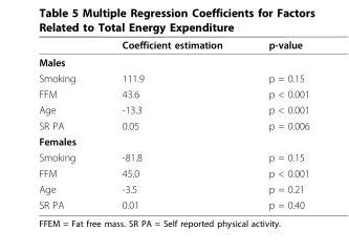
<table><thead><tr><td></td><td>Coefficient estimation</td><td>p-value</td></tr></thead><tbody><tr><td colspan="3">Males</td></tr><tr><td>Smoking</td><td>111.9</td><td>p = 0.15</td></tr><tr><td>FFM</td><td>43.6</td><td>p &lt; 0.001</td></tr><tr><td>Age</td><td>-13.3</td><td>p &lt; 0.001</td></tr><tr><td>SR PA</td><td>0.05</td><td>p = 0.006</td></tr><tr><td colspan="3">Females</td></tr><tr><td>Smoking</td><td>-81.8</td><td>p = 0.15</td></tr><tr><td>FFM</td><td>45.0</td><td>p &lt; 0.001</td></tr><tr><td>Age</td><td>-3.5</td><td>p = 0.21</td></tr><tr><td>SR PA</td><td>0.01</td><td>p = 0.40</td></tr></tbody></table>